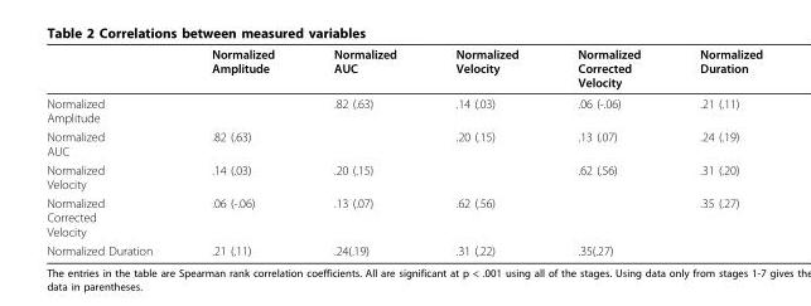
<table><thead><tr><td></td><td>Normalized Amplitude</td><td>Normalized AUC</td><td>Normalized Velocity</td><td>Normalized Corrected Velocity</td><td>Normalized Duration</td></tr></thead><tbody><tr><td>Normalized Amplitude</td><td></td><td>.82 (.63)</td><td>.14 (.03)</td><td>.06 (-.06)</td><td>.21 (.11)</td></tr><tr><td>Normalized AUC</td><td>.82 (.63)</td><td></td><td>.20 (.15)</td><td>.13 (.07)</td><td>.24 (.19)</td></tr><tr><td>Normalized Velocity</td><td>.14 (.03)</td><td>.20 (.15)</td><td></td><td>.62 (.56)</td><td>.31 (.20)</td></tr><tr><td>Normalized Corrected Velocity</td><td>.06 (-.06)</td><td>.13 (.07)</td><td>.62 (.56)</td><td></td><td>.35 (.27)</td></tr><tr><td>Normalized Duration</td><td>.21 (.11)</td><td>.24(.19)</td><td>.31 (.22)</td><td>.35(.27)</td><td></td></tr></tbody></table>